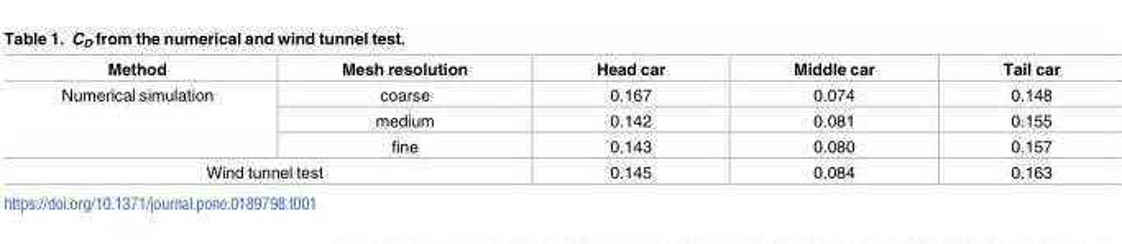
<table><thead><tr><td>Method</td><td>Mesh resolution</td><td>Head car</td><td>Middle car</td><td>Tail car</td></tr></thead><tbody><tr><td rowspan="3">Numerical simulation</td><td>coarse</td><td>0.167</td><td>0.074</td><td>0.148</td></tr><tr><td>medium</td><td>0.142</td><td>0.081</td><td>0.155</td></tr><tr><td>fine</td><td>0.143</td><td>0.080</td><td>0.157</td></tr><tr><td colspan="2">Wind tunnel test</td><td>0.145</td><td>0.084</td><td>0.163</td></tr></tbody></table>